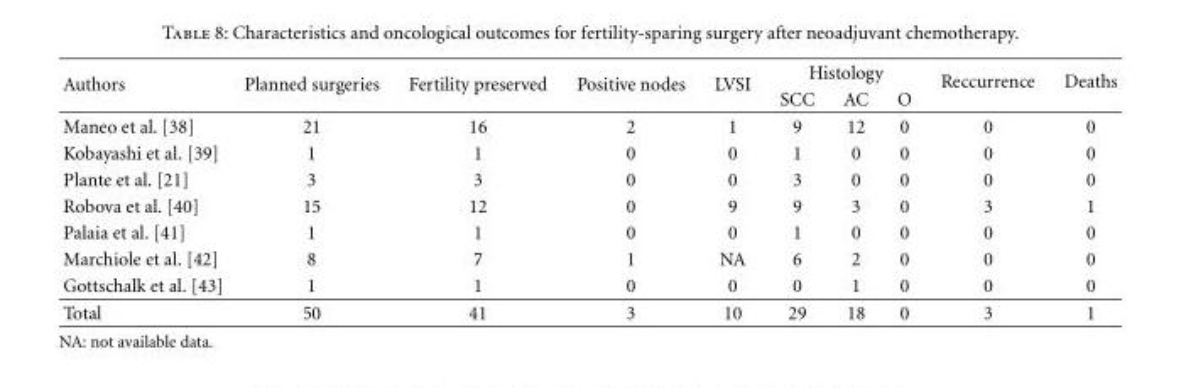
<table><thead><tr><td rowspan="2">Authors</td><td rowspan="2">Planned surgeries</td><td rowspan="2">Fertility preserved</td><td rowspan="2">Positive nodes</td><td rowspan="2">LVSI</td><td colspan="3">Histology</td><td rowspan="2">Reccurrence</td><td rowspan="2">Deaths</td></tr><tr><td>SCC</td><td>AC</td><td>O</td></tr></thead><tbody><tr><td>Maneo et al. [38]</td><td>21</td><td>16</td><td>2</td><td>1</td><td>9</td><td>12</td><td>0</td><td>0</td><td>0</td></tr><tr><td>Kobayashi et al. [39]</td><td>1</td><td>1</td><td>0</td><td>0</td><td>1</td><td>0</td><td>0</td><td>0</td><td>0</td></tr><tr><td>Plante et al. [21]</td><td>3</td><td>3</td><td>0</td><td>0</td><td>3</td><td>0</td><td>0</td><td>0</td><td>0</td></tr><tr><td>Robova et al. [40]</td><td>15</td><td>12</td><td>0</td><td>9</td><td>9</td><td>3</td><td>0</td><td>3</td><td>1</td></tr><tr><td>Palaia et al. [41]</td><td>1</td><td>1</td><td>0</td><td>0</td><td>1</td><td>0</td><td>0</td><td>0</td><td>0</td></tr><tr><td>Marchiole et al. [42]</td><td>8</td><td>7</td><td>1</td><td>NA</td><td>6</td><td>2</td><td>0</td><td>0</td><td>0</td></tr><tr><td>Gottschalk et al. [43]</td><td>1</td><td>1</td><td>0</td><td>0</td><td>0</td><td>1</td><td>0</td><td>0</td><td>0</td></tr><tr><td>Total</td><td>50</td><td>41</td><td>3</td><td>10</td><td>29</td><td>18</td><td>0</td><td>3</td><td>1</td></tr></tbody></table>